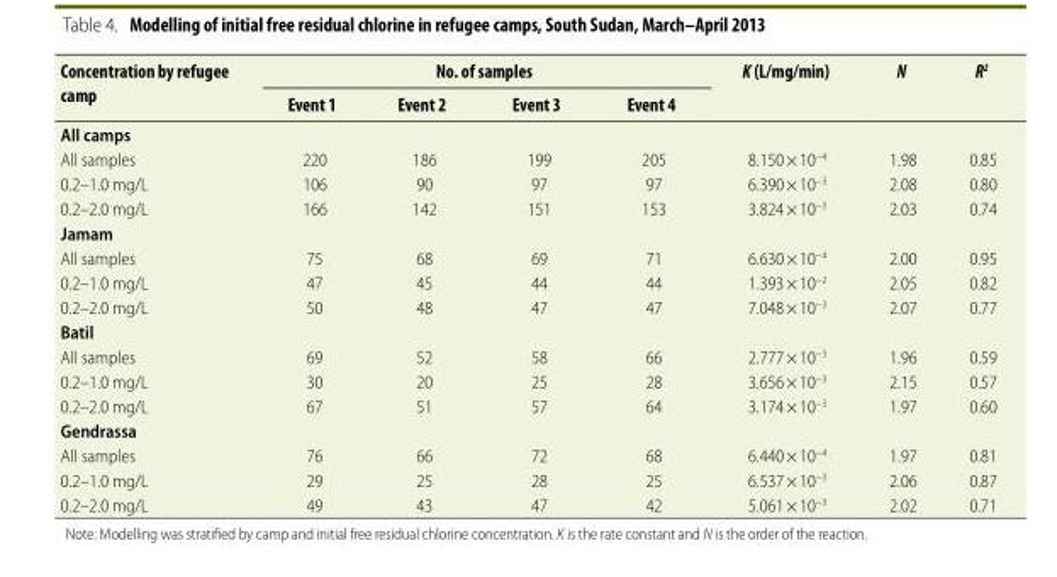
<table><thead><tr><td rowspan="2">Concentration by refugee camp</td><td colspan="4">No. of samples</td><td rowspan="2">K (L/mg/min)</td><td rowspan="2">N</td><td rowspan="2">R<sup>2</sup></td></tr><tr><td>Event 1</td><td>Event 2</td><td>Event 3</td><td>Event 4</td></tr></thead><tbody><tr><td colspan="8">All camps</td></tr><tr><td>All samples</td><td>220</td><td>186</td><td>199</td><td>205</td><td>8.150 × 10<sup>−4</sup></td><td>1.98</td><td>0.85</td></tr><tr><td>0.2–1.0 mg/L</td><td>106</td><td>90</td><td>97</td><td>97</td><td>6.390 × 10<sup>−3</sup></td><td>2.08</td><td>0.80</td></tr><tr><td>0.2–2.0 mg/L</td><td>166</td><td>142</td><td>151</td><td>153</td><td>3.824 × 10<sup>−3</sup></td><td>2.03</td><td>0.74</td></tr><tr><td colspan="8">Jamam</td></tr><tr><td>All samples</td><td>75</td><td>68</td><td>69</td><td>71</td><td>6.630 × 10<sup>−4</sup></td><td>2.00</td><td>0.95</td></tr><tr><td>0.2–1.0 mg/L</td><td>47</td><td>45</td><td>44</td><td>44</td><td>1.393 × 10<sup>−2</sup></td><td>2.05</td><td>0.82</td></tr><tr><td>0.2–2.0 mg/L</td><td>50</td><td>48</td><td>47</td><td>47</td><td>7.048 × 10<sup>−3</sup></td><td>2.07</td><td>0.77</td></tr><tr><td colspan="8">Batil</td></tr><tr><td>All samples</td><td>69</td><td>52</td><td>58</td><td>66</td><td>2.777 × 10<sup>−3</sup></td><td>1.96</td><td>0.59</td></tr><tr><td>0.2–1.0 mg/L</td><td>30</td><td>20</td><td>25</td><td>28</td><td>3.656 × 10<sup>−3</sup></td><td>2.15</td><td>0.57</td></tr><tr><td>0.2–2.0 mg/L</td><td>67</td><td>51</td><td>57</td><td>64</td><td>3.174 × 10<sup>−3</sup></td><td>1.97</td><td>0.60</td></tr><tr><td colspan="8">Gendrassa</td></tr><tr><td>All samples</td><td>76</td><td>66</td><td>72</td><td>68</td><td>6.440 × 10<sup>−4</sup></td><td>1.97</td><td>0.81</td></tr><tr><td>0.2–1.0 mg/L</td><td>29</td><td>25</td><td>28</td><td>25</td><td>6.537 × 10<sup>−3</sup></td><td>2.06</td><td>0.87</td></tr><tr><td>0.2–2.0 mg/L</td><td>49</td><td>43</td><td>47</td><td>42</td><td>5.061 × 10<sup>−3</sup></td><td>2.02</td><td>0.71</td></tr></tbody></table>